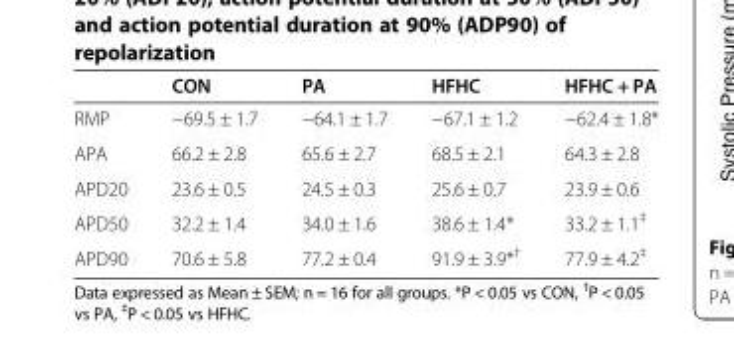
<table><thead><tr><td></td><td>CON</td><td>PA</td><td>HFHC</td><td>HFHC + PA</td></tr></thead><tbody><tr><td>RMP</td><td>−69.5 ± 1.7</td><td>−64.1 ± 1.7</td><td>−67.1 ± 1.2</td><td>−62.4 ± 1.8*</td></tr><tr><td>APA</td><td>66.2 ± 2.8</td><td>65.6 ± 2.7</td><td>68.5 ± 2.1</td><td>64.3 ± 2.8</td></tr><tr><td>APD20</td><td>23.6 ± 0.5</td><td>24.5 ± 0.3</td><td>25.6 ± 0.7</td><td>23.9 ± 0.6</td></tr><tr><td>APD50</td><td>32.2 ± 1.4</td><td>34.0 ± 1.6</td><td>38.6 ± 1.4*</td><td>33.2 ± 1.1<sup>‡</sup></td></tr><tr><td>APD90</td><td>70.6 ± 5.8</td><td>77.2 ± 0.4</td><td>91.9 ± 3.9*<sup>†</sup></td><td>77.9 ± 4.2<sup>‡</sup></td></tr></tbody></table>